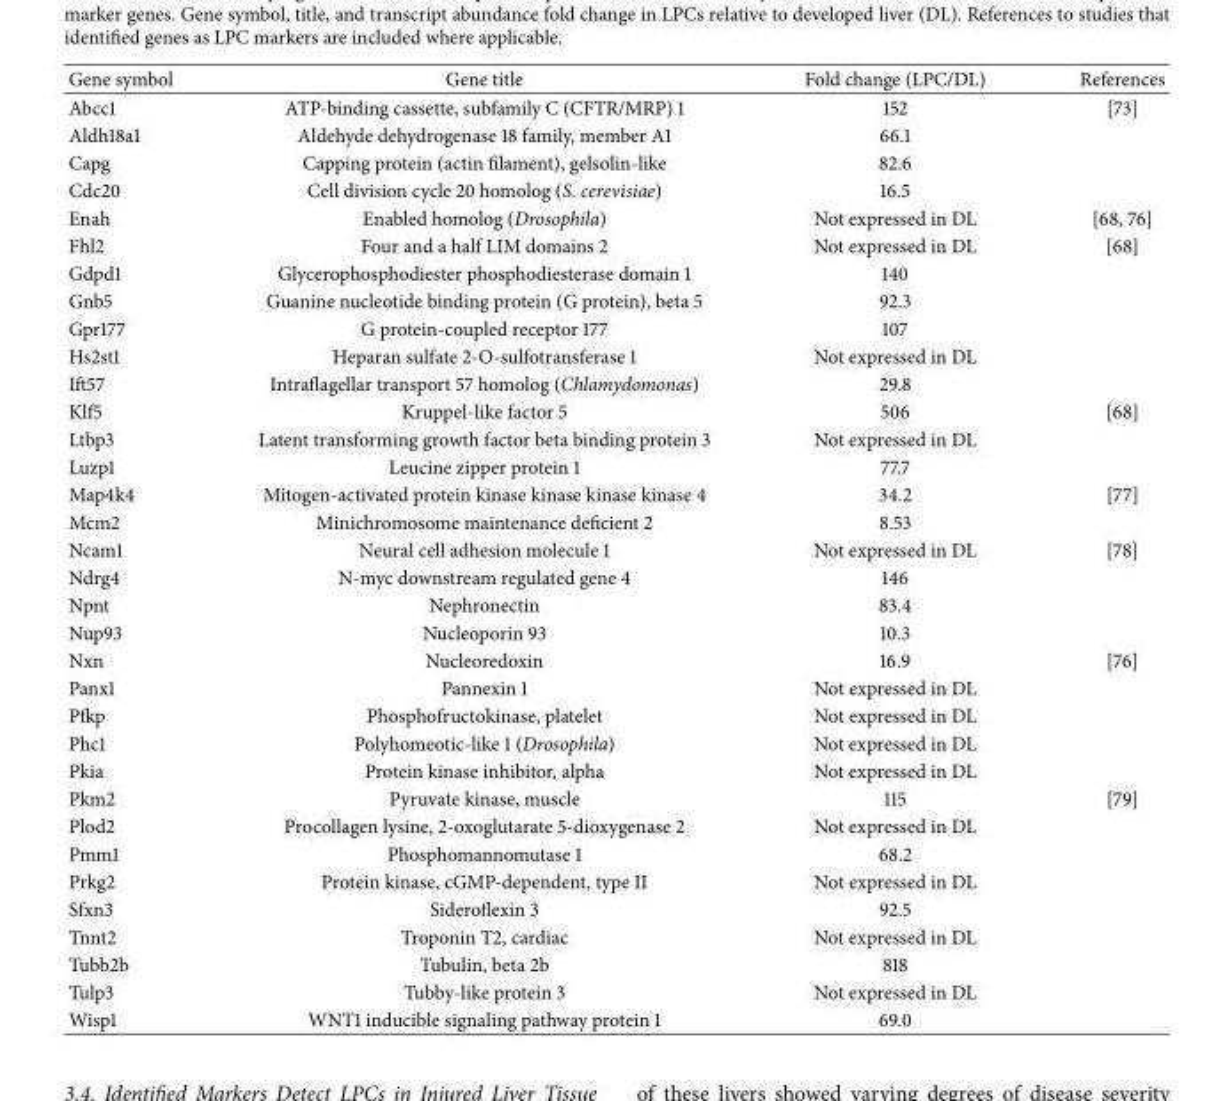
<table><tbody><tr><td>Gene symbol</td><td>Gene title</td><td>Fold change (LPC/DL)</td><td>References</td></tr><tr><td>Abcc1</td><td>ATP-binding cassette, subfamily C (CFTR/MRP) 1</td><td>152</td><td>[73]</td></tr><tr><td>Aldh18a1</td><td>Aldehyde dehydrogenase 18 family, member A1</td><td>66.1</td><td></td></tr><tr><td>Capg</td><td>Capping protein (actin filament), gelsolin-like</td><td>82.6</td><td></td></tr><tr><td>Cdc20</td><td>Cell division cycle 20 homolog (S. cerevisiae)</td><td>16.5</td><td></td></tr><tr><td>Enah</td><td>Enabled homolog (Drosophila)</td><td>Not expressed in DL</td><td>[68, 76]</td></tr><tr><td>Fhl2</td><td>Four and a half LIM domains 2</td><td>Not expressed in DL</td><td>[68]</td></tr><tr><td>Gdpd1</td><td>Glycerophosphodiester phosphodiesterase domain 1</td><td>140</td><td></td></tr><tr><td>Gnb5</td><td>Guanine nucleotide binding protein (G protein), beta 5</td><td>92.3</td><td></td></tr><tr><td>Gpr177</td><td>G protein-coupled receptor 177</td><td>107</td><td></td></tr><tr><td>Hs2st1</td><td>Heparan sulfate 2-O-sulfotransferase 1</td><td>Not expressed in DL</td><td></td></tr><tr><td>Ift57</td><td>Intraflagellar transport 57 homolog (Chlamydomonas)</td><td>29.8</td><td></td></tr><tr><td>Klf5</td><td>Kruppel-like factor 5</td><td>506</td><td>[68]</td></tr><tr><td>Ltbp3</td><td>Latent transforming growth factor beta binding protein 3</td><td>Not expressed in DL</td><td></td></tr><tr><td>Luzp1</td><td>Leucine zipper protein 1</td><td>77.7</td><td></td></tr><tr><td>Map4k4</td><td>Mitogen-activated protein kinase kinase kinase kinase 4</td><td>34.2</td><td>[77]</td></tr><tr><td>Mcm2</td><td>Minichromosome maintenance deficient 2</td><td>8.53</td><td></td></tr><tr><td>Ncam1</td><td>Neural cell adhesion molecule 1</td><td>Not expressed in DL</td><td>[78]</td></tr><tr><td>Ndrg4</td><td>N-myc downstream regulated gene 4</td><td>146</td><td></td></tr><tr><td>Npnt</td><td>Nephronectin</td><td>83.4</td><td></td></tr><tr><td>Nup93</td><td>Nucleoporin 93</td><td>10.3</td><td></td></tr><tr><td>Nxn</td><td>Nucleoredoxin</td><td>16.9</td><td>[76]</td></tr><tr><td>Panx1</td><td>Pannexin 1</td><td>Not expressed in DL</td><td></td></tr><tr><td>Pfkp</td><td>Phosphofructokinase, platelet</td><td>Not expressed in DL</td><td></td></tr><tr><td>Phc1</td><td>Polyhomeotic-like 1 (Drosophila)</td><td>Not expressed in DL</td><td></td></tr><tr><td>Pkia</td><td>Protein kinase inhibitor, alpha</td><td>Not expressed in DL</td><td></td></tr><tr><td>Pkm2</td><td>Pyruvate kinase, muscle</td><td>115</td><td>[79]</td></tr><tr><td>Plod2</td><td>Procollagen lysine, 2-oxoglutarate 5-dioxygenase 2</td><td>Not expressed in DL</td><td></td></tr><tr><td>Pmm1</td><td>Phosphomannomutase 1</td><td>68.2</td><td></td></tr><tr><td>Prkg2</td><td>Protein kinase, cGMP-dependent, type II</td><td>Not expressed in DL</td><td></td></tr><tr><td>Sfxn3</td><td>Sideroflexin 3</td><td>92.5</td><td></td></tr><tr><td>Tnnt2</td><td>Troponin T2, cardiac</td><td>Not expressed in DL</td><td></td></tr><tr><td>Tubb2b</td><td>Tubulin, beta 2b</td><td>818</td><td></td></tr><tr><td>Tulp3</td><td>Tubby-like protein 3</td><td>Not expressed in DL</td><td></td></tr><tr><td>Wisp1</td><td>WNT1 inducible signaling pathway protein 1</td><td>69.0</td><td></td></tr></tbody></table>